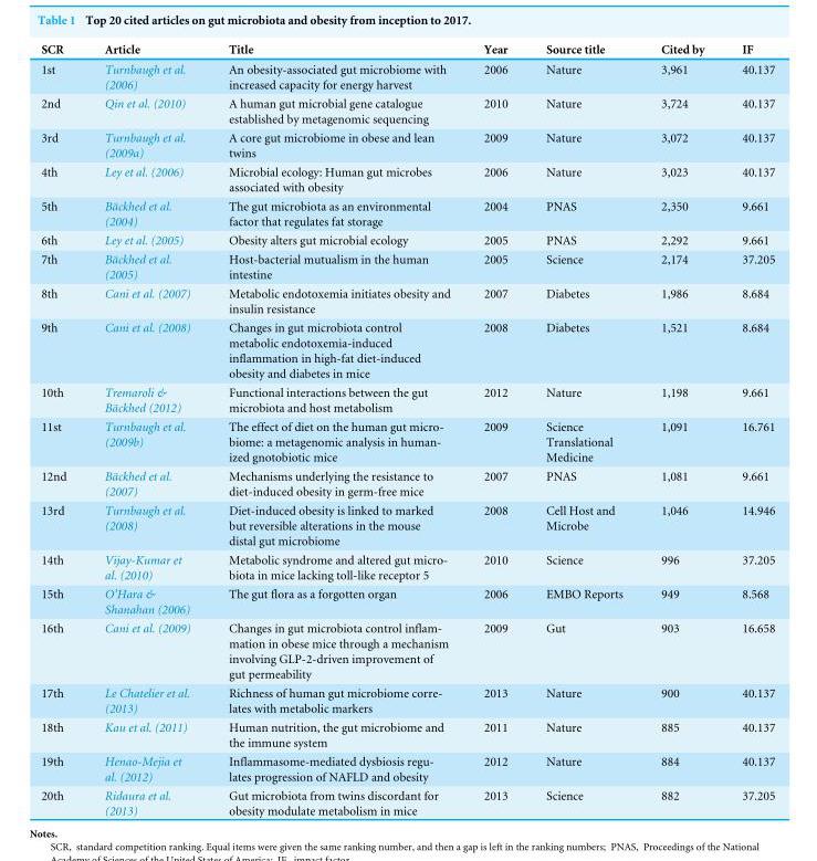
<table><thead><tr><td>SCR</td><td>Article</td><td>Title</td><td>Year</td><td>Source title</td><td>Cited by</td><td>IF</td></tr></thead><tbody><tr><td>1st</td><td>Turnbaugh et al. (2006)</td><td>An obesity-associated gut microbiome with increased capacity for energy harvest</td><td>2006</td><td>Nature</td><td>3,961</td><td>40.137</td></tr><tr><td>2nd</td><td>Qin et al. (2010)</td><td>A human gut microbial gene catalogue established by metagenomic sequencing</td><td>2010</td><td>Nature</td><td>3,724</td><td>40.137</td></tr><tr><td>3rd</td><td>Turnbaugh et al. (2009a)</td><td>A core gut microbiome in obese and lean twins</td><td>2009</td><td>Nature</td><td>3,072</td><td>40.137</td></tr><tr><td>4th</td><td>Ley et al. (2006)</td><td>Microbial ecology: Human gut microbes associated with obesity</td><td>2006</td><td>Nature</td><td>3,023</td><td>40.137</td></tr><tr><td>5th</td><td>Bäckhed et al. (2004)</td><td>The gut microbiota as an environmental factor that regulates fat storage</td><td>2004</td><td>PNAS</td><td>2,350</td><td>9.661</td></tr><tr><td>6th</td><td>Ley et al. (2005)</td><td>Obesity alters gut microbial ecology</td><td>2005</td><td>PNAS</td><td>2,292</td><td>9.661</td></tr><tr><td>7th</td><td>Bäckhed et al. (2005)</td><td>Host-bacterial mutualism in the human intestine</td><td>2005</td><td>Science</td><td>2,174</td><td>37.205</td></tr><tr><td>8th</td><td>Cani et al. (2007)</td><td>Metabolic endotoxemia initiates obesity and insulin resistance</td><td>2007</td><td>Diabetes</td><td>1,986</td><td>8.684</td></tr><tr><td>9th</td><td>Cani et al. (2008)</td><td>Changes in gut microbiota control metabolic endotoxemia-induced inflammation in high-fat diet-induced obesity and diabetes in mice</td><td>2008</td><td>Diabetes</td><td>1,521</td><td>8.684</td></tr><tr><td>10th</td><td>Tremaroli &amp; Bäckhed (2012)</td><td>Functional interactions between the gut microbiota and host metabolism</td><td>2012</td><td>Nature</td><td>1,198</td><td>9.661</td></tr><tr><td>11st</td><td>Turnbaugh et al. (2009b)</td><td>The effect of diet on the human gut micro- biome: a metagenomic analysis in human- ized gnotobiotic mice</td><td>2009</td><td>Science Translational Medicine</td><td>1,091</td><td>16.761</td></tr><tr><td>12nd</td><td>Bäckhed et al. (2007)</td><td>Mechanisms underlying the resistance to diet-induced obesity in germ-free mice</td><td>2007</td><td>PNAS</td><td>1,081</td><td>9.661</td></tr><tr><td>13rd</td><td>Turnbaugh et al. (2008)</td><td>Diet-induced obesity is linked to marked but reversible alterations in the mouse distal gut microbiome</td><td>2008</td><td>Cell Host and Microbe</td><td>1,046</td><td>14.946</td></tr><tr><td>14th</td><td>Vijay-Kumar et al. (2010)</td><td>Metabolic syndrome and altered gut micro- biota in mice lacking toll-like receptor 5</td><td>2010</td><td>Science</td><td>996</td><td>37.205</td></tr><tr><td>15th</td><td>O’Hara &amp; Shanahan (2006)</td><td>The gut flora as a forgotten organ</td><td>2006</td><td>EMBO Reports</td><td>949</td><td>8.568</td></tr><tr><td>16th</td><td>Cani et al. (2009)</td><td>Changes in gut microbiota control inflam- mation in obese mice through a mechanism involving GLP-2-driven improvement of gut permeability</td><td>2009</td><td>Gut</td><td>903</td><td>16.658</td></tr><tr><td>17th</td><td>Le Chatelier et al. (2013)</td><td>Richness of human gut microbiome corre- lates with metabolic markers</td><td>2013</td><td>Nature</td><td>900</td><td>40.137</td></tr><tr><td>18th</td><td>Kau et al. (2011)</td><td>Human nutrition, the gut microbiome and the immune system</td><td>2011</td><td>Nature</td><td>885</td><td>40.137</td></tr><tr><td>19th</td><td>Henao-Mejia et al. (2012)</td><td>Inflammasome-mediated dysbiosis regu- lates progression of NAFLD and obesity</td><td>2012</td><td>Nature</td><td>884</td><td>40.137</td></tr><tr><td>20th</td><td>Ridaura et al. (2013)</td><td>Gut microbiota from twins discordant for obesity modulate metabolism in mice</td><td>2013</td><td>Science</td><td>882</td><td>37.205</td></tr></tbody></table>